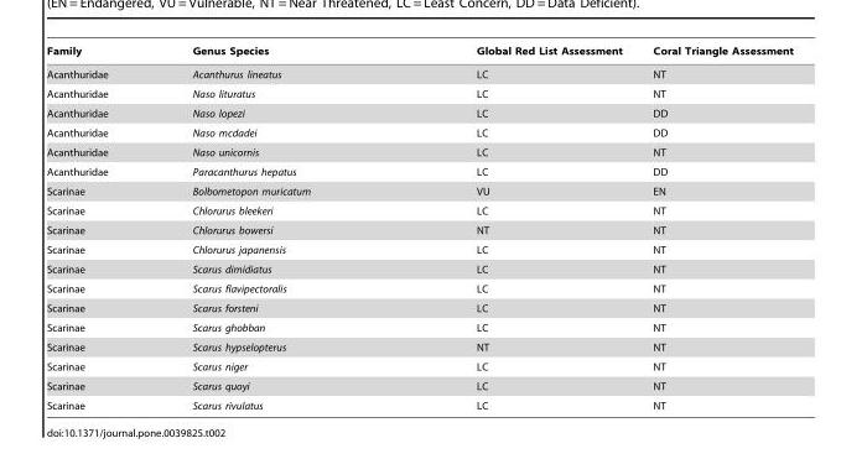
<table><thead><tr><td>Family</td><td>Genus Species</td><td>Global Red List Assessment</td><td>Coral Triangle Assessment</td></tr></thead><tbody><tr><td>Acanthuridae</td><td>Acanthurus lineatus</td><td>LC</td><td>NT</td></tr><tr><td>Acanthuridae</td><td>Naso lituratus</td><td>LC</td><td>NT</td></tr><tr><td>Acanthuridae</td><td>Naso lopezi</td><td>LC</td><td>DD</td></tr><tr><td>Acanthuridae</td><td>Naso mcdadei</td><td>LC</td><td>DD</td></tr><tr><td>Acanthuridae</td><td>Naso unicornis</td><td>LC</td><td>NT</td></tr><tr><td>Acanthuridae</td><td>Paracanthurus hepatus</td><td>LC</td><td>DD</td></tr><tr><td>Scarinae</td><td>Bolbometopon muricatum</td><td>VU</td><td>EN</td></tr><tr><td>Scarinae</td><td>Chlorurus bleekeri</td><td>LC</td><td>NT</td></tr><tr><td>Scarinae</td><td>Chlorurus bowersi</td><td>NT</td><td>NT</td></tr><tr><td>Scarinae</td><td>Chlorurus japanensis</td><td>LC</td><td>NT</td></tr><tr><td>Scarinae</td><td>Scarus dimidiatus</td><td>LC</td><td>NT</td></tr><tr><td>Scarinae</td><td>Scarus flavipectoralis</td><td>LC</td><td>NT</td></tr><tr><td>Scarinae</td><td>Scarus forsteni</td><td>LC</td><td>NT</td></tr><tr><td>Scarinae</td><td>Scarus ghobban</td><td>LC</td><td>NT</td></tr><tr><td>Scarinae</td><td>Scarus hypselopterus</td><td>NT</td><td>NT</td></tr><tr><td>Scarinae</td><td>Scarus niger</td><td>LC</td><td>NT</td></tr><tr><td>Scarinae</td><td>Scarus quoyi</td><td>LC</td><td>NT</td></tr><tr><td>Scarinae</td><td>Scarus rivulatus</td><td>LC</td><td>NT</td></tr></tbody></table>